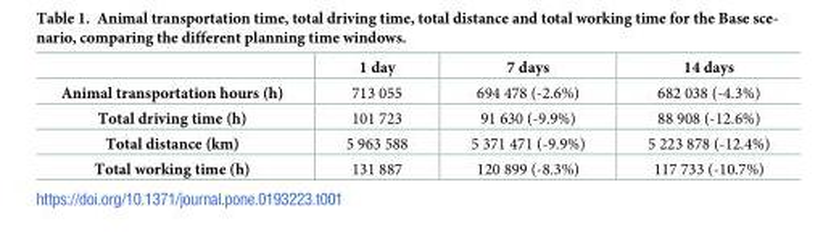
<table><thead><tr><td></td><td>1 day</td><td>7 days</td><td>14 days</td></tr></thead><tbody><tr><td>Animal transportation hours (h)</td><td>713 055</td><td>694 478 (-2.6%)</td><td>682 038 (-4.3%)</td></tr><tr><td>Total driving time (h)</td><td>101 723</td><td>91 630 (-9.9%)</td><td>88 908 (-12.6%)</td></tr><tr><td>Total distance (km)</td><td>5 963 588</td><td>5 371 471 (-9.9%)</td><td>5 223 878 (-12.4%)</td></tr><tr><td>Total working time (h)</td><td>131 887</td><td>120 899 (-8.3%)</td><td>117 733 (-10.7%)</td></tr></tbody></table>